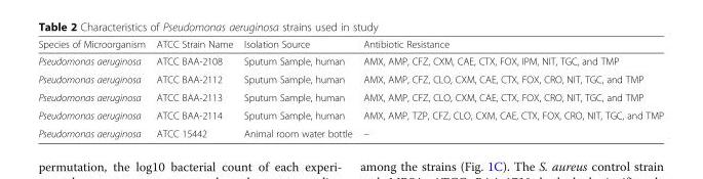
<table><thead><tr><td>Species of Microorganism</td><td>ATCC Strain Name</td><td>Isolation Source</td><td>Antibiotic Resistance</td></tr></thead><tbody><tr><td>Pseudomonas aeruginosa</td><td>ATCC BAA-2108</td><td>Sputum Sample, human</td><td>AMX, AMP, CFZ, CXM, CAE, CTX, FOX, IPM, NIT, TGC, and TMP</td></tr><tr><td>Pseudomonas aeruginosa</td><td>ATCC BAA-2112</td><td>Sputum Sample, human</td><td>AMX, AMP, CFZ, CLO, CXM, CAE, CTX, FOX, CRO, NIT, TGC, and TMP</td></tr><tr><td>Pseudomonas aeruginosa</td><td>ATCC BAA-2113</td><td>Sputum Sample, human</td><td>AMX, AMP, CFZ, CLO, CXM, CAE, CTX, FOX, CRO, NIT, TGC, and TMP</td></tr><tr><td>Pseudomonas aeruginosa</td><td>ATCC BAA-2114</td><td>Sputum Sample, human</td><td>AMX, AMP, TZP, CFZ, CLO, CXM, CAE, CTX, FOX, CRO, NIT, TGC, and TMP</td></tr><tr><td>Pseudomonas aeruginosa</td><td>ATCC 15442</td><td>Animal room water bottle</td><td>–</td></tr></tbody></table>